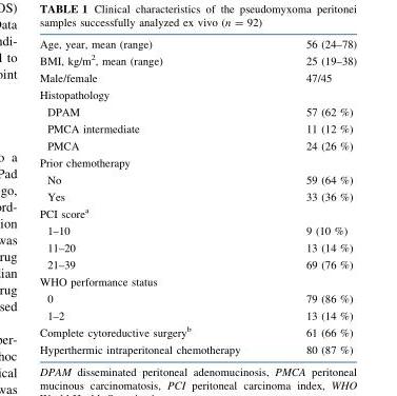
<table><tbody><tr><td>Age, year, mean (range)</td><td>56 (24–78)</td></tr><tr><td>BMI, kg/m<sup>2</sup>, mean (range)</td><td>25 (19–38)</td></tr><tr><td>Male/female</td><td>47/45</td></tr><tr><td colspan="2">Histopathology</td></tr><tr><td>DPAM</td><td>57 (62 %)</td></tr><tr><td>PMCA intermediate</td><td>11 (12 %)</td></tr><tr><td>PMCA</td><td>24 (26 %)</td></tr><tr><td colspan="2">Prior chemotherapy</td></tr><tr><td>No</td><td>59 (64 %)</td></tr><tr><td>Yes</td><td>33 (36 %)</td></tr><tr><td colspan="2">PCI score<sup>a</sup></td></tr><tr><td>1–10</td><td>9 (10 %)</td></tr><tr><td>11–20</td><td>13 (14 %)</td></tr><tr><td>21–39</td><td>69 (76 %)</td></tr><tr><td colspan="2">WHO performance status</td></tr><tr><td>0</td><td>79 (86 %)</td></tr><tr><td>1–2</td><td>13 (14 %)</td></tr><tr><td>Complete cytoreductive surgery<sup>b</sup></td><td>61 (66 %)</td></tr><tr><td>Hyperthermic intraperitoneal chemotherapy</td><td>80 (87 %)</td></tr></tbody></table>